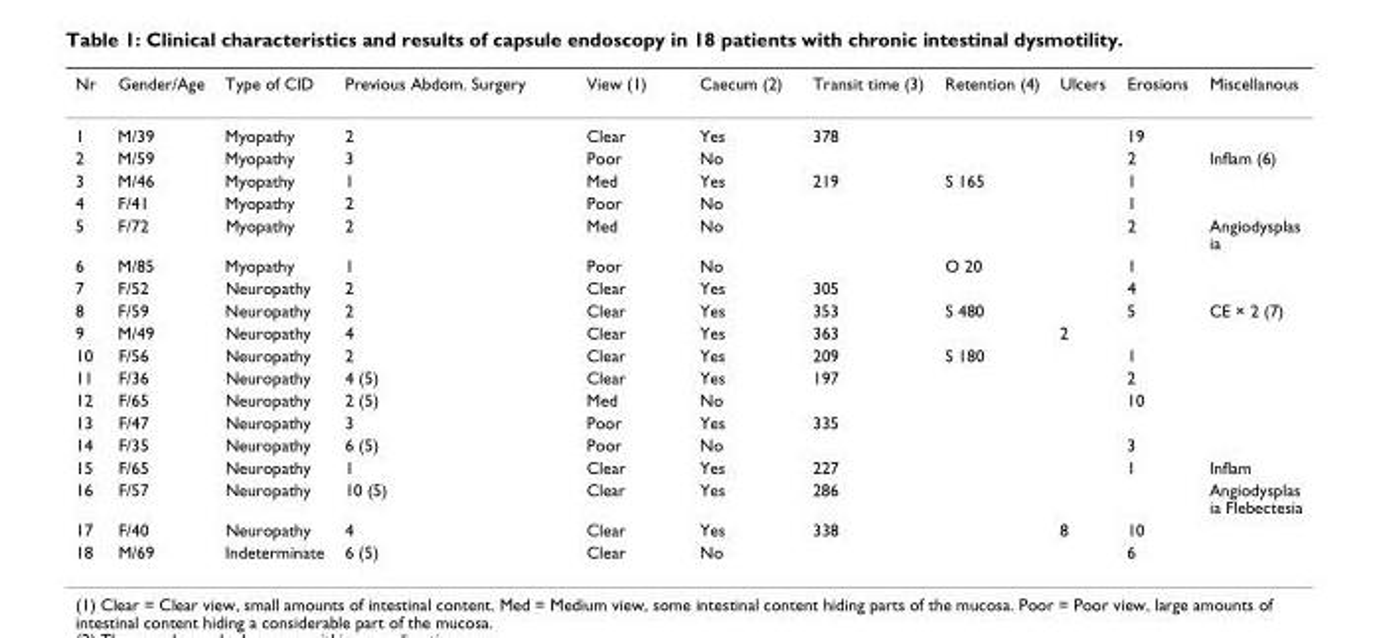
<table><thead><tr><td>Nr</td><td>Gender/Age</td><td>Type of CID</td><td>Previous Abdom. Surgery</td><td>View (1)</td><td>Caecum (2)</td><td>Transit time (3)</td><td>Retention (4)</td><td>Ulcers</td><td>Erosions</td><td>Miscellanous</td></tr></thead><tbody><tr><td>1</td><td>M/39</td><td>Myopathy</td><td>2</td><td>Clear</td><td>Yes</td><td>378</td><td></td><td></td><td>19</td><td></td></tr><tr><td>2</td><td>M/59</td><td>Myopathy</td><td>3</td><td>Poor</td><td>No</td><td></td><td></td><td></td><td>2</td><td>Inflam (6)</td></tr><tr><td>3</td><td>M/46</td><td>Myopathy</td><td>1</td><td>Med</td><td>Yes</td><td>219</td><td>S 165</td><td></td><td>1</td><td></td></tr><tr><td>4</td><td>F/41</td><td>Myopathy</td><td>2</td><td>Poor</td><td>No</td><td></td><td></td><td></td><td>1</td><td></td></tr><tr><td>5</td><td>F/72</td><td>Myopathy</td><td>2</td><td>Med</td><td>No</td><td></td><td></td><td></td><td>2</td><td>Angiodysplas ia</td></tr><tr><td>6</td><td>M/85</td><td>Myopathy</td><td>1</td><td>Poor</td><td>No</td><td></td><td>O 20</td><td></td><td>1</td><td></td></tr><tr><td>7</td><td>F/52</td><td>Neuropathy</td><td>2</td><td>Clear</td><td>Yes</td><td>305</td><td></td><td></td><td>4</td><td></td></tr><tr><td>8</td><td>F/59</td><td>Neuropathy</td><td>2</td><td>Clear</td><td>Yes</td><td>353</td><td>S 480</td><td></td><td>5</td><td>CE × 2 (7)</td></tr><tr><td>9</td><td>M/49</td><td>Neuropathy</td><td>4</td><td>Clear</td><td>Yes</td><td>363</td><td></td><td>2</td><td></td><td></td></tr><tr><td>10</td><td>F/56</td><td>Neuropathy</td><td>2</td><td>Clear</td><td>Yes</td><td>209</td><td>S 180</td><td></td><td>1</td><td></td></tr><tr><td>11</td><td>F/36</td><td>Neuropathy</td><td>4 (5)</td><td>Clear</td><td>Yes</td><td>197</td><td></td><td></td><td>2</td><td></td></tr><tr><td>12</td><td>F/65</td><td>Neuropathy</td><td>2 (5)</td><td>Med</td><td>No</td><td></td><td></td><td></td><td>10</td><td></td></tr><tr><td>13</td><td>F/47</td><td>Neuropathy</td><td>3</td><td>Poor</td><td>Yes</td><td>335</td><td></td><td></td><td></td><td></td></tr><tr><td>14</td><td>F/35</td><td>Neuropathy</td><td>6 (5)</td><td>Poor</td><td>No</td><td></td><td></td><td></td><td>3</td><td></td></tr><tr><td>15</td><td>F/65</td><td>Neuropathy</td><td>1</td><td>Clear</td><td>Yes</td><td>227</td><td></td><td></td><td>1</td><td>Inflam</td></tr><tr><td>16</td><td>F/57</td><td>Neuropathy</td><td>10 (5)</td><td>Clear</td><td>Yes</td><td>286</td><td></td><td></td><td></td><td>Angiodysplas ia Flebectesia</td></tr><tr><td>17</td><td>F/40</td><td>Neuropathy</td><td>4</td><td>Clear</td><td>Yes</td><td>338</td><td></td><td>8</td><td>10</td><td></td></tr><tr><td>18</td><td>M/69</td><td>Indeterminate</td><td>6 (5)</td><td>Clear</td><td>No</td><td></td><td></td><td></td><td>6</td><td></td></tr></tbody></table>